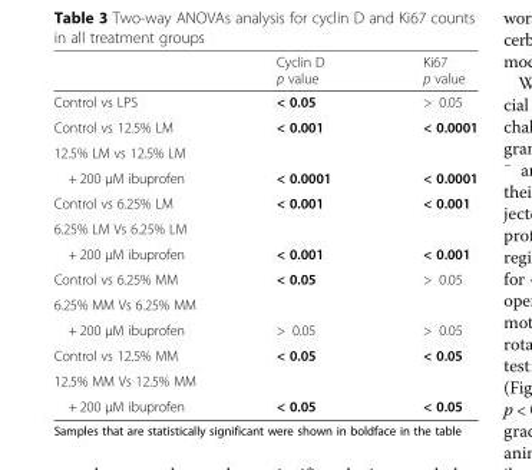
<table><thead><tr><td></td><td>Cyclin D p value</td><td>Ki67 p value</td></tr></thead><tbody><tr><td>Control vs LPS</td><td>&lt; 0.05</td><td>&gt; 0.05</td></tr><tr><td>Control vs 12.5% LM</td><td>&lt; 0.001</td><td>&lt; 0.0001</td></tr><tr><td colspan="3">12.5% LM vs 12.5% LM</td></tr><tr><td>+ 200 μM ibuprofen</td><td>&lt; 0.0001</td><td>&lt; 0.0001</td></tr><tr><td>Control vs 6.25% LM</td><td>&lt; 0.001</td><td>&lt; 0.001</td></tr><tr><td colspan="3">6.25% LM Vs 6.25% LM</td></tr><tr><td>+ 200 μM ibuprofen</td><td>&lt; 0.001</td><td>&lt; 0.001</td></tr><tr><td>Control vs 6.25% MM</td><td>&lt; 0.05</td><td>&gt; 0.05</td></tr><tr><td colspan="3">6.25% MM Vs 6.25% MM</td></tr><tr><td>+ 200 μM ibuprofen</td><td>&gt; 0.05</td><td>&gt; 0.05</td></tr><tr><td>Control vs 12.5% MM</td><td>&lt; 0.05</td><td>&lt; 0.05</td></tr><tr><td colspan="3">12.5% MM Vs 12.5% MM</td></tr><tr><td>+ 200 μM ibuprofen</td><td>&lt; 0.05</td><td>&lt; 0.05</td></tr></tbody></table>